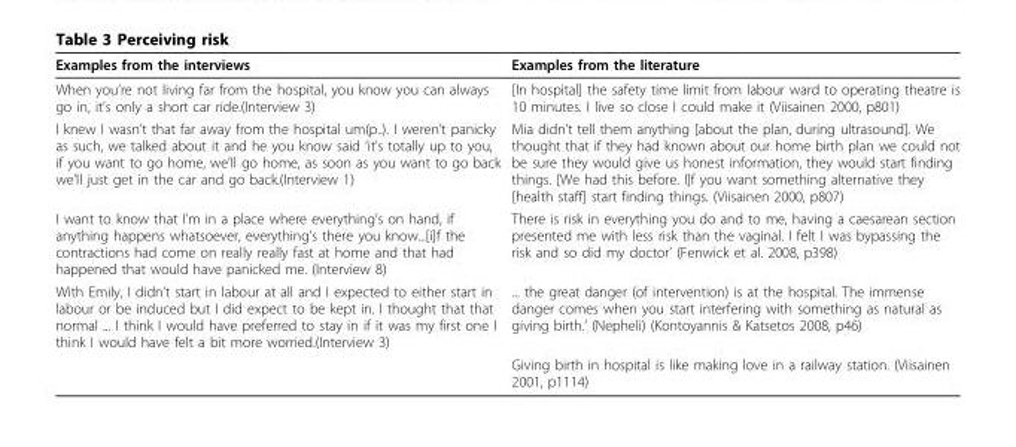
<table><thead><tr><td>Examples from the interviews</td><td>Examples from the literature</td></tr></thead><tbody><tr><td>When you’re not living far from the hospital, you know you can always go in, it’s only a short car ride.(Interview 3)</td><td>[In hospital] the safety time limit from labour ward to operating theatre is 10 minutes. I live so close I could make it (Viisainen 2000, p801)</td></tr><tr><td>I knew I wasn’t that far away from the hospital um(p..). I weren’t panicky as such, we talked about it and he you know said ‘it’s totally up to you, if you want to go home, we’ll go home, as soon as you want to go back we’ll just get in the car and go back.(Interview 1)</td><td>Mia didn’t tell them anything [about the plan, during ultrasound]. We thought that if they had known about our home birth plan we could not be sure they would give us honest information, they would start finding things. [We had this before. I]f you want something alternative they [health staff] start finding things. (Viisainen 2000, p807)</td></tr><tr><td>I want to know that I’m in a place where everything’s on hand, if anything happens whatsoever, everything’s there you know...[i]f the contractions had come on really really fast at home and that had happened that would have panicked me. (Interview 8)</td><td>There is risk in everything you do and to me, having a caesarean section presented me with less risk than the vaginal. I felt I was bypassing the risk and so did my doctor’ (Fenwick et al. 2008, p398)</td></tr><tr><td rowspan="2">With Emily, I didn’t start in labour at all and I expected to either start in labour or be induced but I did expect to be kept in. I thought that that normal ... I think I would have preferred to stay in if it was my first one I think I would have felt a bit more worried.(Interview 3)</td><td>... the great danger (of intervention) is at the hospital. The immense danger comes when you start interfering with something as natural as giving birth.’ (Nepheli) (Kontoyannis &amp; Katsetos 2008, p46)</td></tr><tr><td>Giving birth in hospital is like making love in a railway station. (Viisainen 2001, p1114)</td></tr></tbody></table>